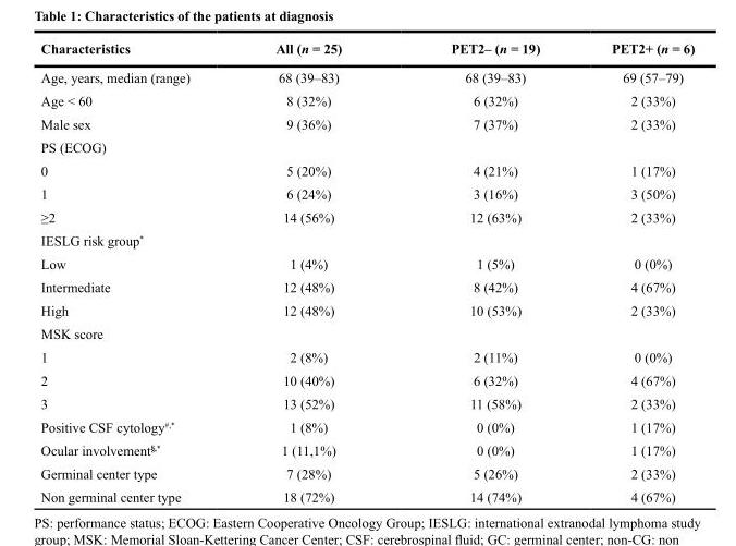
<table><thead><tr><td>Characteristics</td><td>All (n = 25)</td><td>PET2– (n = 19)</td><td>PET2+ (n = 6)</td></tr></thead><tbody><tr><td>Age, years, median (range)</td><td>68 (39–83)</td><td>68 (39–83)</td><td>69 (57–79)</td></tr><tr><td>Age &lt; 60</td><td>8 (32%)</td><td>6 (32%)</td><td>2 (33%)</td></tr><tr><td>Male sex</td><td>9 (36%)</td><td>7 (37%)</td><td>2 (33%)</td></tr><tr><td colspan="4">PS (ECOG)</td></tr><tr><td>0</td><td>5 (20%)</td><td>4 (21%)</td><td>1 (17%)</td></tr><tr><td>1</td><td>6 (24%)</td><td>3 (16%)</td><td>3 (50%)</td></tr><tr><td>≥2</td><td>14 (56%)</td><td>12 (63%)</td><td>2 (33%)</td></tr><tr><td colspan="4">IESLG risk group*</td></tr><tr><td>Low</td><td>1 (4%)</td><td>1 (5%)</td><td>0 (0%)</td></tr><tr><td>Intermediate</td><td>12 (48%)</td><td>8 (42%)</td><td>4 (67%)</td></tr><tr><td>High</td><td>12 (48%)</td><td>10 (53%)</td><td>2 (33%)</td></tr><tr><td colspan="4">MSK score</td></tr><tr><td>1</td><td>2 (8%)</td><td>2 (11%)</td><td>0 (0%)</td></tr><tr><td>2</td><td>10 (40%)</td><td>6 (32%)</td><td>4 (67%)</td></tr><tr><td>3</td><td>13 (52%)</td><td>11 (58%)</td><td>2 (33%)</td></tr><tr><td>Positive CSF cytology<sup>#,*</sup></td><td>1 (8%)</td><td>0 (0%)</td><td>1 (17%)</td></tr><tr><td>Ocular involvement<sup>§,*</sup></td><td>1 (11,1%)</td><td>0 (0%)</td><td>1 (17%)</td></tr><tr><td>Germinal center type</td><td>7 (28%)</td><td>5 (26%)</td><td>2 (33%)</td></tr><tr><td>Non germinal center type</td><td>18 (72%)</td><td>14 (74%)</td><td>4 (67%)</td></tr></tbody></table>